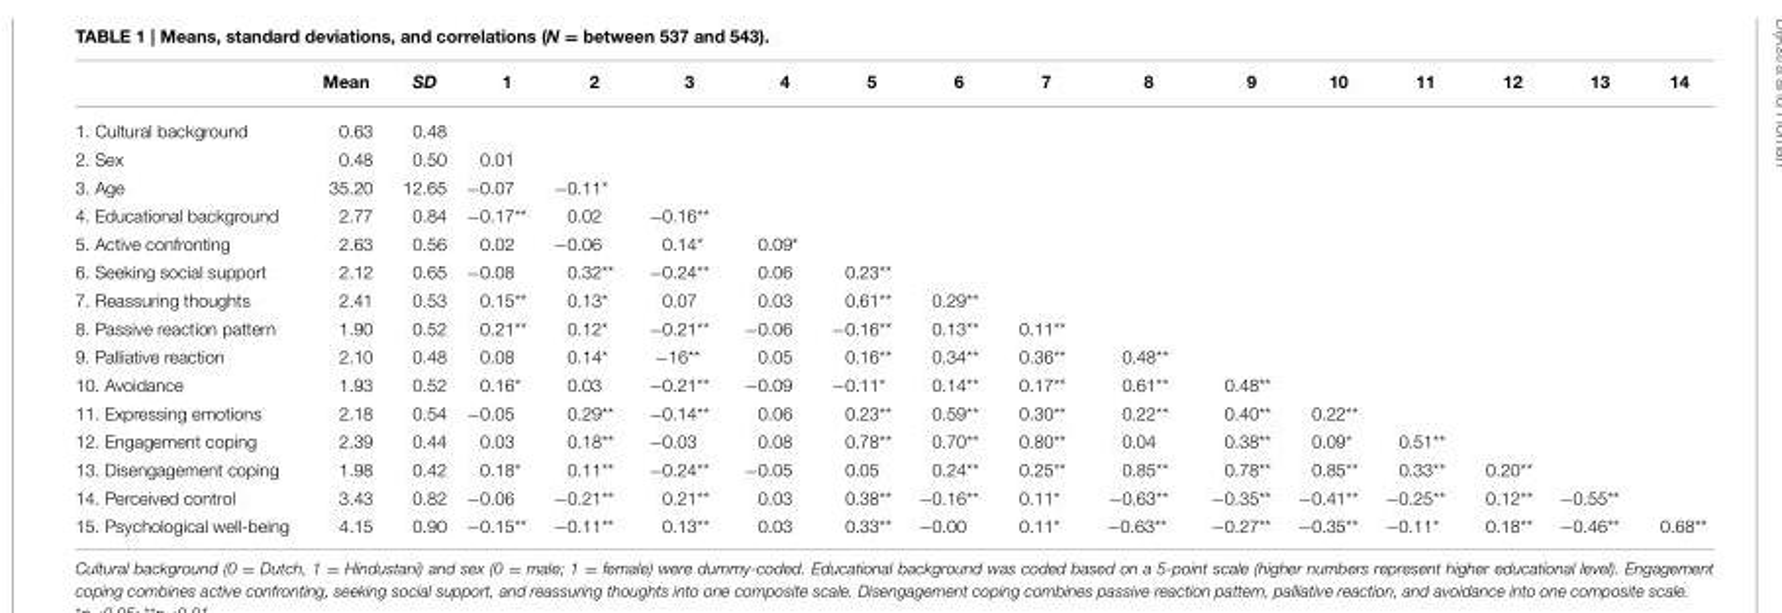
<table><thead><tr><td></td><td>Mean</td><td>SD</td><td>1</td><td>2</td><td>3</td><td>4</td><td>5</td><td>6</td><td>7</td><td>8</td><td>9</td><td>10</td><td>11</td><td>12</td><td>13</td><td>14</td></tr></thead><tbody><tr><td>1. Cultural background</td><td>0.63</td><td>0.48</td><td></td><td></td><td></td><td></td><td></td><td></td><td></td><td></td><td></td><td></td><td></td><td></td><td></td><td></td></tr><tr><td>2. Sex</td><td>0.48</td><td>0.50</td><td>0.01</td><td></td><td></td><td></td><td></td><td></td><td></td><td></td><td></td><td></td><td></td><td></td><td></td><td></td></tr><tr><td>3. Age</td><td>35.20</td><td>12.65</td><td>−0.07</td><td>−0.11*</td><td></td><td></td><td></td><td></td><td></td><td></td><td></td><td></td><td></td><td></td><td></td><td></td></tr><tr><td>4. Educational background</td><td>2.77</td><td>0.84</td><td>−0.17**</td><td>0.02</td><td>−0.16**</td><td></td><td></td><td></td><td></td><td></td><td></td><td></td><td></td><td></td><td></td><td></td></tr><tr><td>5. Active confronting</td><td>2.63</td><td>0.56</td><td>0.02</td><td>−0.06</td><td>0.14*</td><td>0.09*</td><td></td><td></td><td></td><td></td><td></td><td></td><td></td><td></td><td></td><td></td></tr><tr><td>6. Seeking social support</td><td>2.12</td><td>0.65</td><td>−0.08</td><td>0.32**</td><td>−0.24**</td><td>0.06</td><td>0.23**</td><td></td><td></td><td></td><td></td><td></td><td></td><td></td><td></td><td></td></tr><tr><td>7. Reassuring thoughts</td><td>2.41</td><td>0.53</td><td>0.15**</td><td>0.13*</td><td>0.07</td><td>0.03</td><td>0.61**</td><td>0.29**</td><td></td><td></td><td></td><td></td><td></td><td></td><td></td><td></td></tr><tr><td>8. Passive reaction pattern</td><td>1.90</td><td>0.52</td><td>0.21**</td><td>0.12*</td><td>−0.21**</td><td>−0.06</td><td>−0.16**</td><td>0.13**</td><td>0.11**</td><td></td><td></td><td></td><td></td><td></td><td></td><td></td></tr><tr><td>9. Palliative reaction</td><td>2.10</td><td>0.48</td><td>0.08</td><td>0.14*</td><td>−16**</td><td>0.05</td><td>0.16**</td><td>0.34**</td><td>0.36**</td><td>0.48**</td><td></td><td></td><td></td><td></td><td></td><td></td></tr><tr><td>10. Avoidance</td><td>1.93</td><td>0.52</td><td>0.16*</td><td>0.03</td><td>−0.21**</td><td>−0.09</td><td>−0.11*</td><td>0.14**</td><td>0.17**</td><td>0.61**</td><td>0.48**</td><td></td><td></td><td></td><td></td><td></td></tr><tr><td>11. Expressing emotions</td><td>2.18</td><td>0.54</td><td>−0.05</td><td>0.29**</td><td>−0.14**</td><td>0.06</td><td>0.23**</td><td>0.59**</td><td>0.30**</td><td>0.22**</td><td>0.40**</td><td>0.22**</td><td></td><td></td><td></td><td></td></tr><tr><td>12. Engagement coping</td><td>2.39</td><td>0.44</td><td>0.03</td><td>0.18**</td><td>−0.03</td><td>0.08</td><td>0.78**</td><td>0.70**</td><td>0.80**</td><td>0.04</td><td>0.38**</td><td>0.09*</td><td>0.51**</td><td></td><td></td><td></td></tr><tr><td>13. Disengagement coping</td><td>1.98</td><td>0.42</td><td>0.18*</td><td>0.11**</td><td>−0.24**</td><td>−0.05</td><td>0.05</td><td>0.24**</td><td>0.25**</td><td>0.85**</td><td>0.78**</td><td>0.85**</td><td>0.33**</td><td>0.20**</td><td></td><td></td></tr><tr><td>14. Perceived control</td><td>3.43</td><td>0.82</td><td>−0.06</td><td>−0.21**</td><td>0.21**</td><td>0.03</td><td>0.38**</td><td>−0.16**</td><td>0.11*</td><td>−0.63**</td><td>−0.35**</td><td>−0.41**</td><td>−0.25**</td><td>0.12**</td><td>−0.55**</td><td></td></tr><tr><td>15. Psychological well-being</td><td>4.15</td><td>0.90</td><td>−0.15**</td><td>−0.11**</td><td>0.13**</td><td>0.03</td><td>0.33**</td><td>−0.00</td><td>0.11*</td><td>−0.63**</td><td>−0.27**</td><td>−0.35**</td><td>−0.11*</td><td>0.18**</td><td>−0.46**</td><td>0.68**</td></tr></tbody></table>